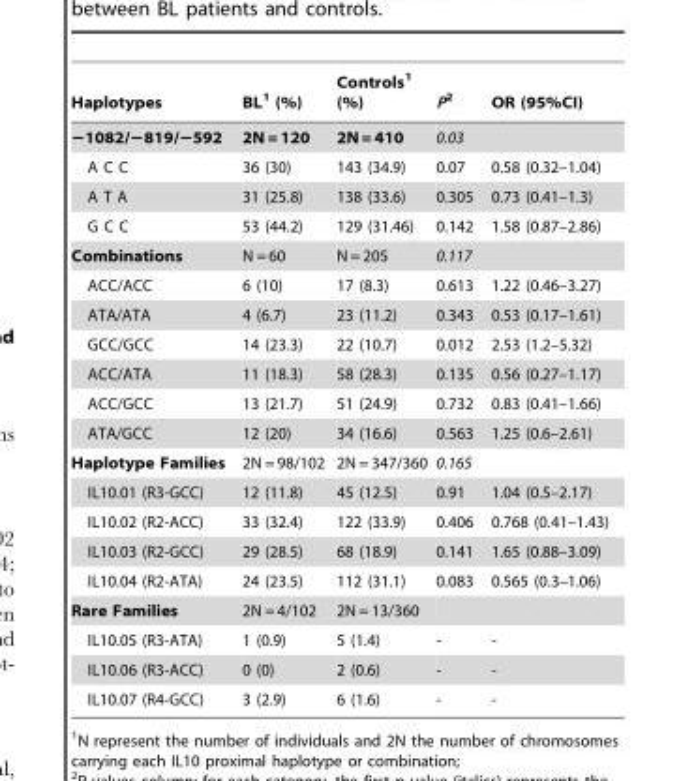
<table><thead><tr><td>Haplotypes</td><td>BL<sup>1</sup> (%)</td><td>Controls<sup>1</sup> (%)</td><td>P2</td><td>OR (95%CI)</td></tr></thead><tbody><tr><td>−1082/−819/−592</td><td>2N = 120</td><td>2N = 410</td><td>0.03</td><td></td></tr><tr><td>A C C</td><td>36 (30)</td><td>143 (34.9)</td><td>0.07</td><td>0.58 (0.32–1.04)</td></tr><tr><td>A T A</td><td>31 (25.8)</td><td>138 (33.6)</td><td>0.305</td><td>0.73 (0.41–1.3)</td></tr><tr><td>G C C</td><td>53 (44.2)</td><td>129 (31.46)</td><td>0.142</td><td>1.58 (0.87–2.86)</td></tr><tr><td>Combinations</td><td>N = 60</td><td>N = 205</td><td>0.117</td><td></td></tr><tr><td>ACC/ACC</td><td>6 (10)</td><td>17 (8.3)</td><td>0.613</td><td>1.22 (0.46–3.27)</td></tr><tr><td>ATA/ATA</td><td>4 (6.7)</td><td>23 (11.2)</td><td>0.343</td><td>0.53 (0.17–1.61)</td></tr><tr><td>GCC/GCC</td><td>14 (23.3)</td><td>22 (10.7)</td><td>0.012</td><td>2.53 (1.2–5.32)</td></tr><tr><td>ACC/ATA</td><td>11 (18.3)</td><td>58 (28.3)</td><td>0.135</td><td>0.56 (0.27–1.17)</td></tr><tr><td>ACC/GCC</td><td>13 (21.7)</td><td>51 (24.9)</td><td>0.732</td><td>0.83 (0.41–1.66)</td></tr><tr><td>ATA/GCC</td><td>12 (20)</td><td>34 (16.6)</td><td>0.563</td><td>1.25 (0.6–2.61)</td></tr><tr><td>Haplotype Families</td><td>2N = 98/102</td><td>2N = 347/360</td><td>0.165</td><td></td></tr><tr><td>IL10.01 (R3-GCC)</td><td>12 (11.8)</td><td>45 (12.5)</td><td>0.91</td><td>1.04 (0.5–2.17)</td></tr><tr><td>IL10.02 (R2-ACC)</td><td>33 (32.4)</td><td>122 (33.9)</td><td>0.406</td><td>0.768 (0.41–1.43)</td></tr><tr><td>IL10.03 (R2-GCC)</td><td>29 (28.5)</td><td>68 (18.9)</td><td>0.141</td><td>1.65 (0.88–3.09)</td></tr><tr><td>IL10.04 (R2-ATA)</td><td>24 (23.5)</td><td>112 (31.1)</td><td>0.083</td><td>0.565 (0.3–1.06)</td></tr><tr><td>Rare Families</td><td>2N = 4/102</td><td>2N = 13/360</td><td></td><td></td></tr><tr><td>IL10.05 (R3-ATA)</td><td>1 (0.9)</td><td>5 (1.4)</td><td>-</td><td>-</td></tr><tr><td>IL10.06 (R3-ACC)</td><td>0 (0)</td><td>2 (0.6)</td><td>-</td><td>-</td></tr><tr><td>IL10.07 (R4-GCC)</td><td>3 (2.9)</td><td>6 (1.6)</td><td>-</td><td>-</td></tr></tbody></table>